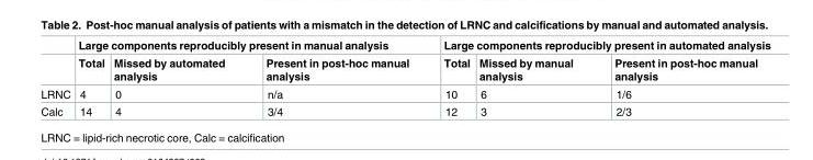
<table><thead><tr><td rowspan="2"></td><td colspan="3">Large components reproducibly present in manual analysis</td><td colspan="3">Large components reproducibly present in automated analysis</td></tr><tr><td>Total</td><td>Missed by automated analysis</td><td>Present in post-hoc manual analysis</td><td>Total</td><td>Missed by manual analysis</td><td>Present in post-hoc manual analysis</td></tr></thead><tbody><tr><td>LRNC</td><td>4</td><td>0</td><td>n/a</td><td>10</td><td>6</td><td>1/6</td></tr><tr><td>Calc</td><td>14</td><td>4</td><td>3/4</td><td>12</td><td>3</td><td>2/3</td></tr></tbody></table>